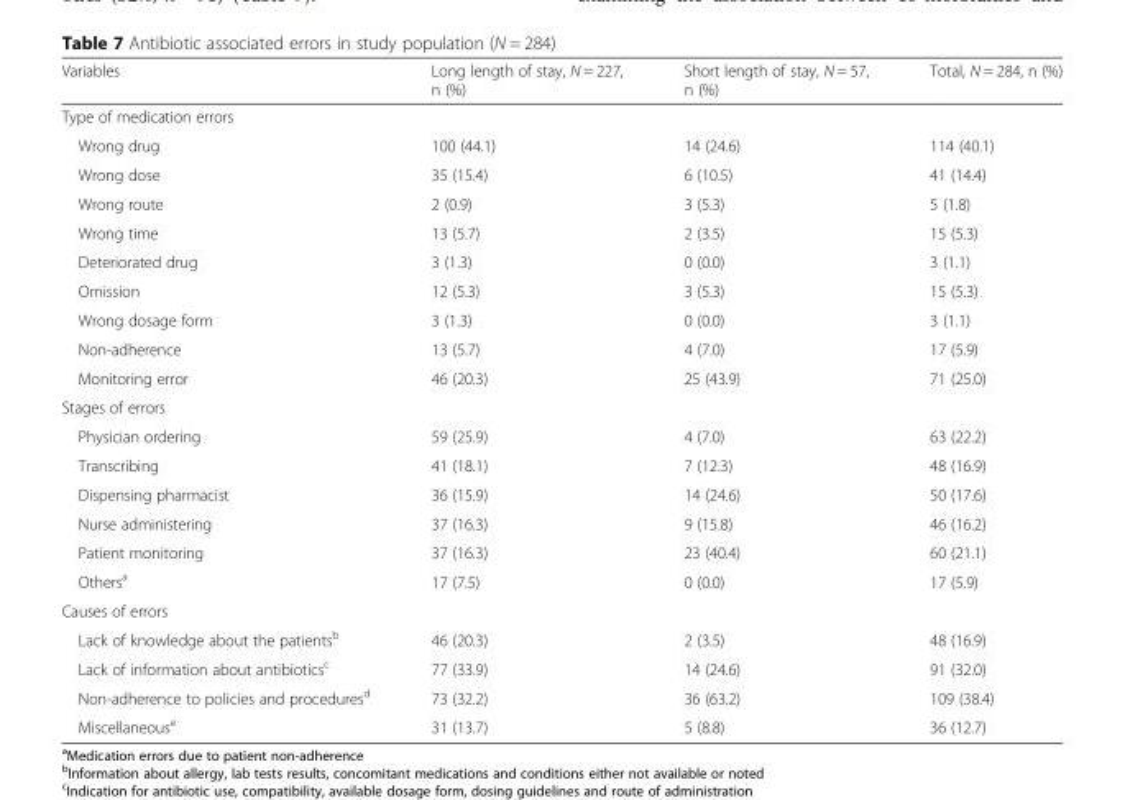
<table><thead><tr><td>Variables</td><td>Long length of stay, N = 227, n (%)</td><td>Short length of stay, N = 57, n (%)</td><td>Total, N = 284, n (%)</td></tr></thead><tbody><tr><td colspan="4">Type of medication errors</td></tr><tr><td>Wrong drug</td><td>100 (44.1)</td><td>14 (24.6)</td><td>114 (40.1)</td></tr><tr><td>Wrong dose</td><td>35 (15.4)</td><td>6 (10.5)</td><td>41 (14.4)</td></tr><tr><td>Wrong route</td><td>2 (0.9)</td><td>3 (5.3)</td><td>5 (1.8)</td></tr><tr><td>Wrong time</td><td>13 (5.7)</td><td>2 (3.5)</td><td>15 (5.3)</td></tr><tr><td>Deteriorated drug</td><td>3 (1.3)</td><td>0 (0.0)</td><td>3 (1.1)</td></tr><tr><td>Omission</td><td>12 (5.3)</td><td>3 (5.3)</td><td>15 (5.3)</td></tr><tr><td>Wrong dosage form</td><td>3 (1.3)</td><td>0 (0.0)</td><td>3 (1.1)</td></tr><tr><td>Non-adherence</td><td>13 (5.7)</td><td>4 (7.0)</td><td>17 (5.9)</td></tr><tr><td>Monitoring error</td><td>46 (20.3)</td><td>25 (43.9)</td><td>71 (25.0)</td></tr><tr><td colspan="4">Stages of errors</td></tr><tr><td>Physician ordering</td><td>59 (25.9)</td><td>4 (7.0)</td><td>63 (22.2)</td></tr><tr><td>Transcribing</td><td>41 (18.1)</td><td>7 (12.3)</td><td>48 (16.9)</td></tr><tr><td>Dispensing pharmacist</td><td>36 (15.9)</td><td>14 (24.6)</td><td>50 (17.6)</td></tr><tr><td>Nurse administering</td><td>37 (16.3)</td><td>9 (15.8)</td><td>46 (16.2)</td></tr><tr><td>Patient monitoring</td><td>37 (16.3)</td><td>23 (40.4)</td><td>60 (21.1)</td></tr><tr><td>Others<sup>a</sup></td><td>17 (7.5)</td><td>0 (0.0)</td><td>17 (5.9)</td></tr><tr><td colspan="4">Causes of errors</td></tr><tr><td>Lack of knowledge about the patients<sup>b</sup></td><td>46 (20.3)</td><td>2 (3.5)</td><td>48 (16.9)</td></tr><tr><td>Lack of information about antibiotics<sup>c</sup></td><td>77 (33.9)</td><td>14 (24.6)</td><td>91 (32.0)</td></tr><tr><td>Non-adherence to policies and procedures<sup>d</sup></td><td>73 (32.2)</td><td>36 (63.2)</td><td>109 (38.4)</td></tr><tr><td>Miscellaneous<sup>e</sup></td><td>31 (13.7)</td><td>5 (8.8)</td><td>36 (12.7)</td></tr></tbody></table>